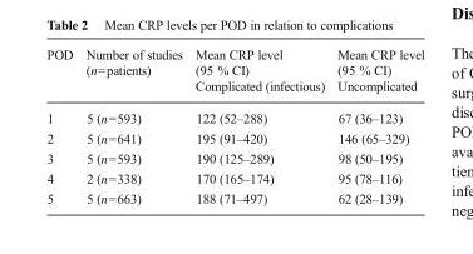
<table><thead><tr><td rowspan="2">POD</td><td rowspan="2">Number of studies (n=patients)</td><td rowspan="2">Mean CRP level (95 % CI) Complicated (infectious)</td><td rowspan="2">Mean CRP level (95 % CI) Uncomplicated</td></tr><tr></tr></thead><tbody><tr><td>1</td><td>5 (n=593)</td><td>122 (52–288)</td><td>67 (36–123)</td></tr><tr><td>2</td><td>5 (n=641)</td><td>195 (91–420)</td><td>146 (65–329)</td></tr><tr><td>3</td><td>5 (n=593)</td><td>190 (125–289)</td><td>98 (50–195)</td></tr><tr><td>4</td><td>2 (n=338)</td><td>170 (165–174)</td><td>95 (78–116)</td></tr><tr><td>5</td><td>5 (n=663)</td><td>188 (71–497)</td><td>62 (28–139)</td></tr></tbody></table>